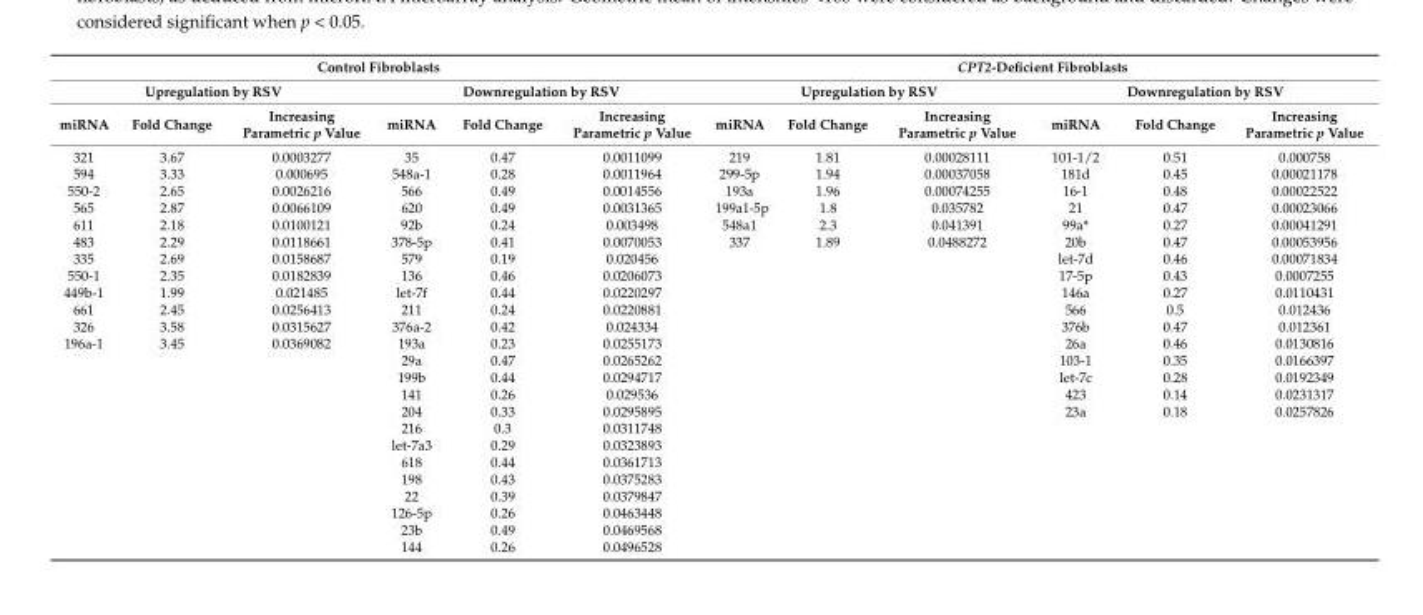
<table><thead><tr><td colspan="6">Control Fibroblasts</td><td colspan="6">CPT2-Deficient Fibroblasts</td></tr><tr><td colspan="3">Upregulation by RSV</td><td colspan="3">Downregulation by RSV</td><td colspan="3">Upregulation by RSV</td><td colspan="3">Downregulation by RSV</td></tr><tr><td>miRNA</td><td>Fold Change</td><td>Increasing Parametric p Value</td><td>miRNA</td><td>Fold Change</td><td>Increasing Parametric p Value</td><td>miRNA</td><td>Fold Change</td><td>Increasing Parametric p Value</td><td>miRNA</td><td>Fold Change</td><td>Increasing Parametric p Value</td></tr></thead><tbody><tr><td>321</td><td>3.67</td><td>0.0003277</td><td>35</td><td>0.47</td><td>0.0011099</td><td>219</td><td>1.81</td><td>0.00028111</td><td>101-1/2</td><td>0.51</td><td>0.000758</td></tr><tr><td>594</td><td>3.33</td><td>0.000695</td><td>548a-1</td><td>0.28</td><td>0.0011964</td><td>299-5p</td><td>1.94</td><td>0.00037058</td><td>181d</td><td>0.45</td><td>0.00021178</td></tr><tr><td>550-2</td><td>2.65</td><td>0.0026216</td><td>566</td><td>0.49</td><td>0.0014556</td><td>193a</td><td>1.96</td><td>0.00074255</td><td>16-1</td><td>0.48</td><td>0.00022522</td></tr><tr><td>565</td><td>2.87</td><td>0.0066109</td><td>620</td><td>0.49</td><td>0.0031365</td><td>199a1-5p</td><td>1.8</td><td>0.035782</td><td>21</td><td>0.47</td><td>0.00023066</td></tr><tr><td>611</td><td>2.18</td><td>0.0100121</td><td>92b</td><td>0.24</td><td>0.003498</td><td>548a1</td><td>2.3</td><td>0.041391</td><td>99a*</td><td>0.27</td><td>0.00041291</td></tr><tr><td>483</td><td>2.29</td><td>0.0118661</td><td>378-5p</td><td>0.41</td><td>0.0070053</td><td>337</td><td>1.89</td><td>0.0488272</td><td>20b</td><td>0.47</td><td>0.00053956</td></tr><tr><td>335</td><td>2.69</td><td>0.0158687</td><td>579</td><td>0.19</td><td>0.020456</td><td></td><td></td><td></td><td>let-7d</td><td>0.46</td><td>0.00071834</td></tr><tr><td>550-1</td><td>2.35</td><td>0.0182839</td><td>136</td><td>0.46</td><td>0.0206073</td><td></td><td></td><td></td><td>17-5p</td><td>0.43</td><td>0.0007255</td></tr><tr><td>449b-1</td><td>1.99</td><td>0.021485</td><td>let-7f</td><td>0.44</td><td>0.0220297</td><td></td><td></td><td></td><td>146a</td><td>0.27</td><td>0.0110431</td></tr><tr><td>661</td><td>2.45</td><td>0.0256413</td><td>211</td><td>0.24</td><td>0.0220881</td><td></td><td></td><td></td><td>566</td><td>0.5</td><td>0.012436</td></tr><tr><td>326</td><td>3.58</td><td>0.0315627</td><td>376a-2</td><td>0.42</td><td>0.024334</td><td></td><td></td><td></td><td>376b</td><td>0.47</td><td>0.012361</td></tr><tr><td rowspan="13">196a-1</td><td>3.45</td><td>0.0369082</td><td>193a</td><td>0.23</td><td>0.0255173</td><td></td><td></td><td></td><td>26a</td><td>0.46</td><td>0.0130816</td></tr><tr><td></td><td></td><td>29a</td><td>0.47</td><td>0.0265262</td><td></td><td></td><td></td><td>103-1</td><td>0.35</td><td>0.0166397</td></tr><tr><td></td><td></td><td>199b</td><td>0.44</td><td>0.0294717</td><td></td><td></td><td></td><td>let-7c</td><td>0.28</td><td>0.0192349</td></tr><tr><td></td><td></td><td>141</td><td>0.26</td><td>0.029536</td><td></td><td></td><td></td><td>423</td><td>0.14</td><td>0.0231317</td></tr><tr><td></td><td></td><td>204</td><td>0.33</td><td>0.0295895</td><td></td><td></td><td></td><td>23a</td><td>0.18</td><td>0.0257826</td></tr><tr><td></td><td></td><td>216</td><td>0.3</td><td>0.0311748</td><td></td><td></td><td></td><td></td><td></td><td></td></tr><tr><td></td><td></td><td>let-7a3</td><td>0.29</td><td>0.0323893</td><td></td><td></td><td></td><td></td><td></td><td></td></tr><tr><td></td><td></td><td>618</td><td>0.44</td><td>0.0361713</td><td></td><td></td><td></td><td></td><td></td><td></td></tr><tr><td></td><td></td><td>198</td><td>0.43</td><td>0.0375283</td><td></td><td></td><td></td><td></td><td></td><td></td></tr><tr><td></td><td></td><td>22</td><td>0.39</td><td>0.0379847</td><td></td><td></td><td></td><td></td><td></td><td></td></tr><tr><td></td><td></td><td>126-5p</td><td>0.26</td><td>0.0463448</td><td></td><td></td><td></td><td></td><td></td><td></td></tr><tr><td></td><td></td><td>23b</td><td>0.49</td><td>0.0469568</td><td></td><td></td><td></td><td></td><td></td><td></td></tr><tr><td></td><td></td><td>144</td><td>0.26</td><td>0.0496528</td><td></td><td></td><td></td><td></td><td></td><td></td></tr></tbody></table>